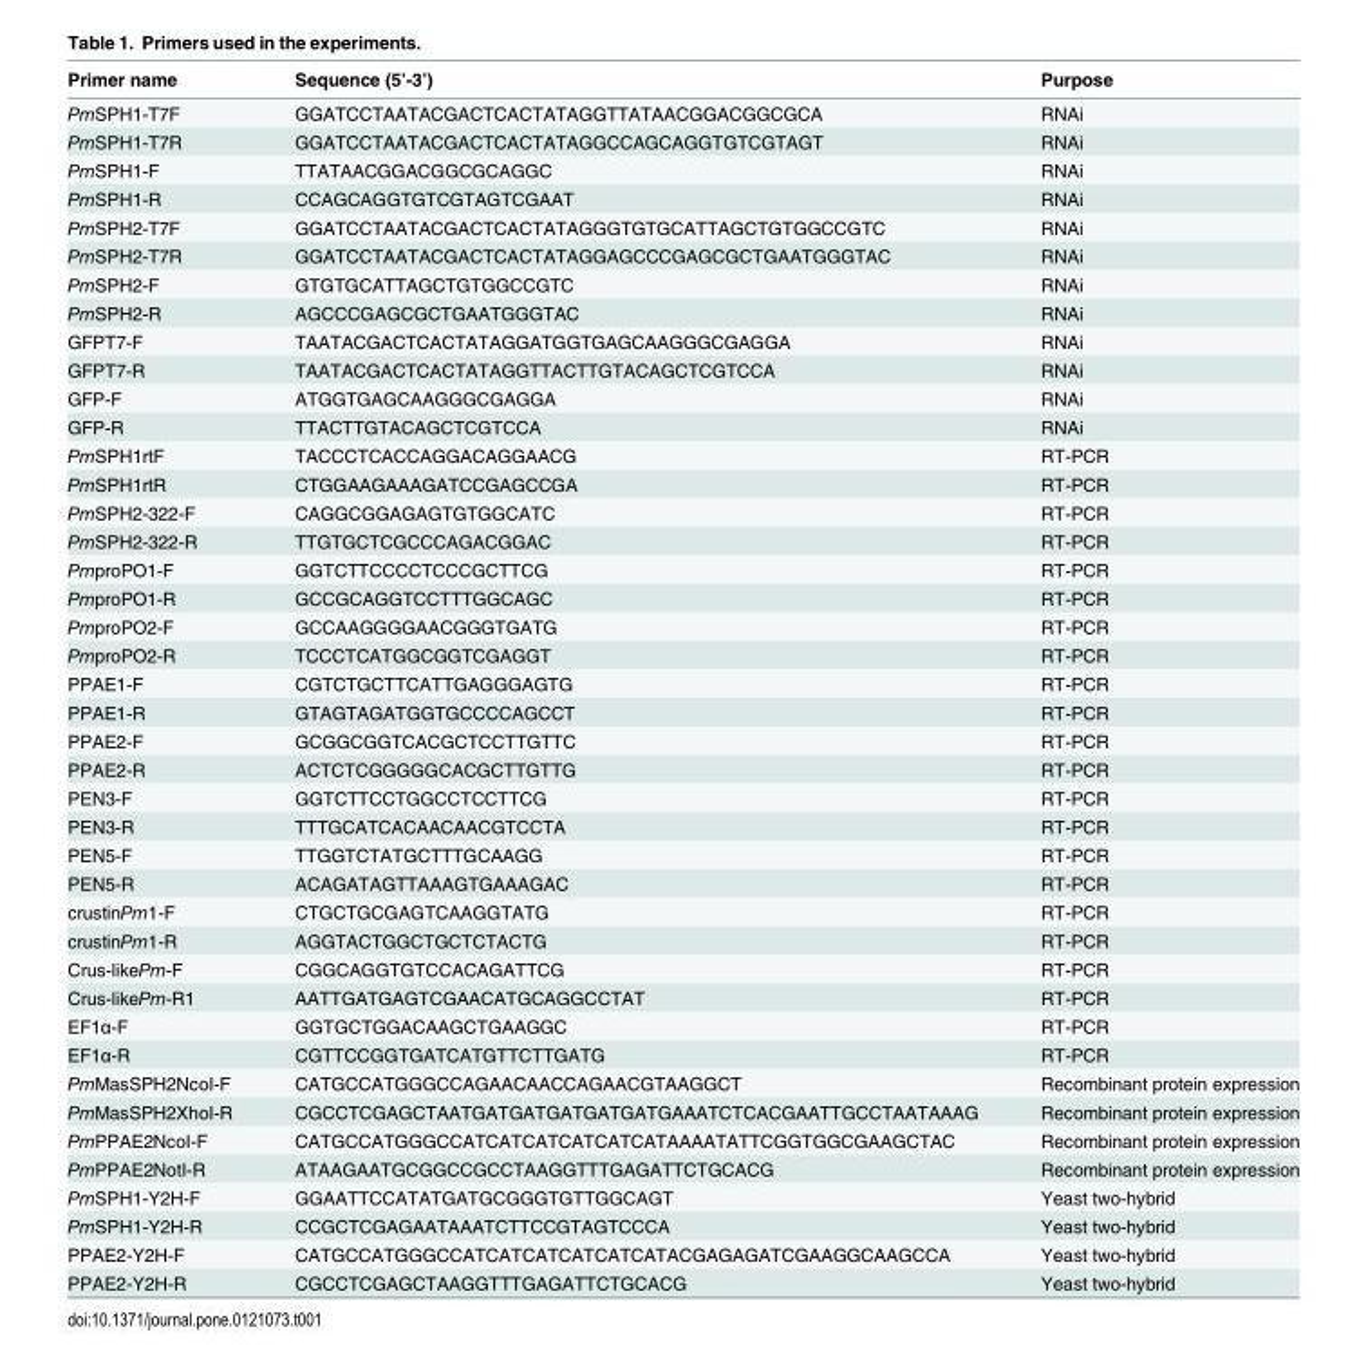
<table><thead><tr><td>Primer name</td><td>Sequence (5’-3’)</td><td>Purpose</td></tr></thead><tbody><tr><td>PmSPH1-T7F</td><td>GGATCCTAATACGACTCACTATAGGTTATAACGGACGGCGCA</td><td>RNAi</td></tr><tr><td>PmSPH1-T7R</td><td>GGATCCTAATACGACTCACTATAGGCCAGCAGGTGTCGTAGT</td><td>RNAi</td></tr><tr><td>PmSPH1-F</td><td>TTATAACGGACGGCGCAGGC</td><td>RNAi</td></tr><tr><td>PmSPH1-R</td><td>CCAGCAGGTGTCGTAGTCGAAT</td><td>RNAi</td></tr><tr><td>PmSPH2-T7F</td><td>GGATCCTAATACGACTCACTATAGGGTGTGCATTAGCTGTGGCCGTC</td><td>RNAi</td></tr><tr><td>PmSPH2-T7R</td><td>GGATCCTAATACGACTCACTATAGGAGCCCGAGCGCTGAATGGGTAC</td><td>RNAi</td></tr><tr><td>PmSPH2-F</td><td>GTGTGCATTAGCTGTGGCCGTC</td><td>RNAi</td></tr><tr><td>PmSPH2-R</td><td>AGCCCGAGCGCTGAATGGGTAC</td><td>RNAi</td></tr><tr><td>GFPT7-F</td><td>TAATACGACTCACTATAGGATGGTGAGCAAGGGCGAGGA</td><td>RNAi</td></tr><tr><td>GFPT7-R</td><td>TAATACGACTCACTATAGGTTACTTGTACAGCTCGTCCA</td><td>RNAi</td></tr><tr><td>GFP-F</td><td>ATGGTGAGCAAGGGCGAGGA</td><td>RNAi</td></tr><tr><td>GFP-R</td><td>TTACTTGTACAGCTCGTCCA</td><td>RNAi</td></tr><tr><td>PmSPH1rtF</td><td>TACCCTCACCAGGACAGGAACG</td><td>RT-PCR</td></tr><tr><td>PmSPH1rtR</td><td>CTGGAAGAAAGATCCGAGCCGA</td><td>RT-PCR</td></tr><tr><td>PmSPH2-322-F</td><td>CAGGCGGAGAGTGTGGCATC</td><td>RT-PCR</td></tr><tr><td>PmSPH2-322-R</td><td>TTGTGCTCGCCCAGACGGAC</td><td>RT-PCR</td></tr><tr><td>PmproPO1-F</td><td>GGTCTTCCCCTCCCGCTTCG</td><td>RT-PCR</td></tr><tr><td>PmproPO1-R</td><td>GCCGCAGGTCCTTTGGCAGC</td><td>RT-PCR</td></tr><tr><td>PmproPO2-F</td><td>GCCAAGGGGAACGGGTGATG</td><td>RT-PCR</td></tr><tr><td>PmproPO2-R</td><td>TCCCTCATGGCGGTCGAGGT</td><td>RT-PCR</td></tr><tr><td>PPAE1-F</td><td>CGTCTGCTTCATTGAGGGAGTG</td><td>RT-PCR</td></tr><tr><td>PPAE1-R</td><td>GTAGTAGATGGTGCCCCAGCCT</td><td>RT-PCR</td></tr><tr><td>PPAE2-F</td><td>GCGGCGGTCACGCTCCTTGTTC</td><td>RT-PCR</td></tr><tr><td>PPAE2-R</td><td>ACTCTCGGGGGCACGCTTGTTG</td><td>RT-PCR</td></tr><tr><td>PEN3-F</td><td>GGTCTTCCTGGCCTCCTTCG</td><td>RT-PCR</td></tr><tr><td>PEN3-R</td><td>TTTGCATCACAACAACGTCCTA</td><td>RT-PCR</td></tr><tr><td>PEN5-F</td><td>TTGGTCTATGCTTTGCAAGG</td><td>RT-PCR</td></tr><tr><td>PEN5-R</td><td>ACAGATAGTTAAAGTGAAAGAC</td><td>RT-PCR</td></tr><tr><td>crustinPm1-F</td><td>CTGCTGCGAGTCAAGGTATG</td><td>RT-PCR</td></tr><tr><td>crustinPm1-R</td><td>AGGTACTGGCTGCTCTACTG</td><td>RT-PCR</td></tr><tr><td>Crus-likePm-F</td><td>CGGCAGGTGTCCACAGATTCG</td><td>RT-PCR</td></tr><tr><td>Crus-likePm-R1</td><td>AATTGATGAGTCGAACATGCAGGCCTAT</td><td>RT-PCR</td></tr><tr><td>EF1α-F</td><td>GGTGCTGGACAAGCTGAAGGC</td><td>RT-PCR</td></tr><tr><td>EF1α-R</td><td>CGTTCCGGTGATCATGTTCTTGATG</td><td>RT-PCR</td></tr><tr><td>PmMasSPH2NcoI-F</td><td>CATGCCATGGGCCAGAACAACCAGAACGTAAGGCT</td><td>Recombinant protein expression</td></tr><tr><td>PmMasSPH2XhoI-R</td><td>CGCCTCGAGCTAATGATGATGATGATGATGAAATCTCACGAATTGCCTAATAAAG</td><td>Recombinant protein expression</td></tr><tr><td>PmPPAE2NcoI-F</td><td>CATGCCATGGGCCATCATCATCATCATCATAAAATATTCGGTGGCGAAGCTAC</td><td>Recombinant protein expression</td></tr><tr><td>PmPPAE2NotI-R</td><td>ATAAGAATGCGGCCGCCTAAGGTTTGAGATTCTGCACG</td><td>Recombinant protein expression</td></tr><tr><td>PmSPH1-Y2H-F</td><td>GGAATTCCATATGATGCGGGTGTTGGCAGT</td><td>Yeast two-hybrid</td></tr><tr><td>PmSPH1-Y2H-R</td><td>CCGCTCGAGAATAAATCTTCCGTAGTCCCA</td><td>Yeast two-hybrid</td></tr><tr><td>PPAE2-Y2H-F</td><td>CATGCCATGGGCCATCATCATCATCATCATACGAGAGATCGAAGGCAAGCCA</td><td>Yeast two-hybrid</td></tr><tr><td>PPAE2-Y2H-R</td><td>CGCCTCGAGCTAAGGTTTGAGATTCTGCACG</td><td>Yeast two-hybrid</td></tr></tbody></table>